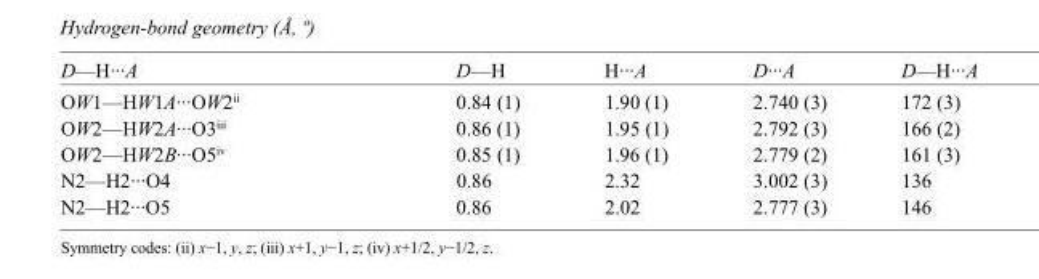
<table><tbody><tr><td>D—H···A</td><td>D—H</td><td>H···A</td><td>D···A</td><td>D—H···A</td></tr><tr><td>OW1—HW1A···OW2<sup>ii</sup></td><td>0.84 (1)</td><td>1.90 (1)</td><td>2.740 (3)</td><td>172 (3)</td></tr><tr><td>OW2—HW2A···O3<sup>iii</sup></td><td>0.86 (1)</td><td>1.95 (1)</td><td>2.792 (3)</td><td>166 (2)</td></tr><tr><td>OW2—HW2B···O5<sup>iv</sup></td><td>0.85 (1)</td><td>1.96 (1)</td><td>2.779 (2)</td><td>161 (3)</td></tr><tr><td>N2—H2···O4</td><td>0.86</td><td>2.32</td><td>3.002 (3)</td><td>136</td></tr><tr><td>N2—H2···O5</td><td>0.86</td><td>2.02</td><td>2.777 (3)</td><td>146</td></tr></tbody></table>